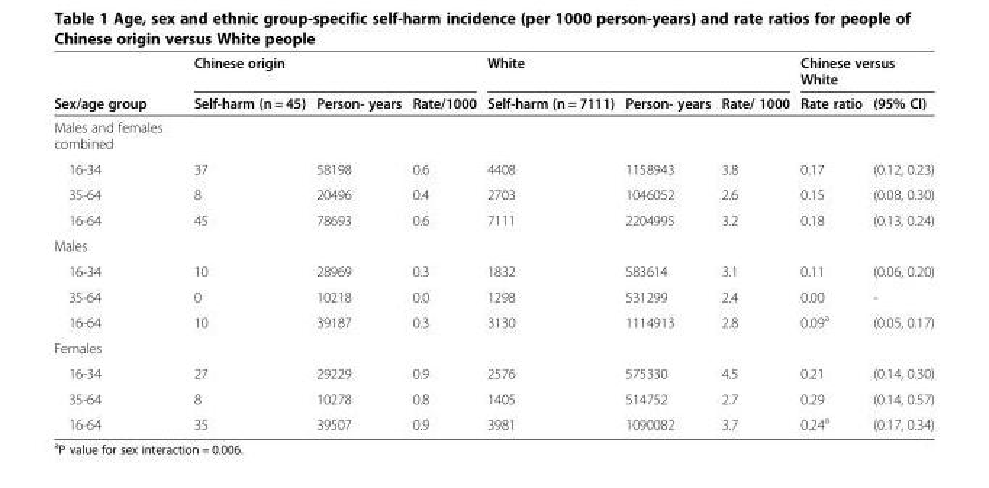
<table><thead><tr><td rowspan="2">Sex/age group</td><td colspan="3">Chinese origin</td><td colspan="3">White</td><td colspan="2">Chinese versus White</td></tr><tr><td>Self-harm (n = 45)</td><td>Person- years</td><td>Rate/1000</td><td>Self-harm (n = 7111)</td><td>Person- years</td><td>Rate/ 1000</td><td>Rate ratio</td><td>(95% CI)</td></tr></thead><tbody><tr><td colspan="9">Males and females combined</td></tr><tr><td>16-34</td><td>37</td><td>58198</td><td>0.6</td><td>4408</td><td>1158943</td><td>3.8</td><td>0.17</td><td>(0.12, 0.23)</td></tr><tr><td>35-64</td><td>8</td><td>20496</td><td>0.4</td><td>2703</td><td>1046052</td><td>2.6</td><td>0.15</td><td>(0.08, 0.30)</td></tr><tr><td>16-64</td><td>45</td><td>78693</td><td>0.6</td><td>7111</td><td>2204995</td><td>3.2</td><td>0.18</td><td>(0.13, 0.24)</td></tr><tr><td colspan="9">Males</td></tr><tr><td>16-34</td><td>10</td><td>28969</td><td>0.3</td><td>1832</td><td>583614</td><td>3.1</td><td>0.11</td><td>(0.06, 0.20)</td></tr><tr><td>35-64</td><td>0</td><td>10218</td><td>0.0</td><td>1298</td><td>531299</td><td>2.4</td><td>0.00</td><td>-</td></tr><tr><td>16-64</td><td>10</td><td>39187</td><td>0.3</td><td>3130</td><td>1114913</td><td>2.8</td><td>0.09<sup>a</sup></td><td>(0.05, 0.17)</td></tr><tr><td colspan="9">Females</td></tr><tr><td>16-34</td><td>27</td><td>29229</td><td>0.9</td><td>2576</td><td>575330</td><td>4.5</td><td>0.21</td><td>(0.14, 0.30)</td></tr><tr><td>35-64</td><td>8</td><td>10278</td><td>0.8</td><td>1405</td><td>514752</td><td>2.7</td><td>0.29</td><td>(0.14, 0.57)</td></tr><tr><td>16-64</td><td>35</td><td>39507</td><td>0.9</td><td>3981</td><td>1090082</td><td>3.7</td><td>0.24<sup>a</sup></td><td>(0.17, 0.34)</td></tr></tbody></table>